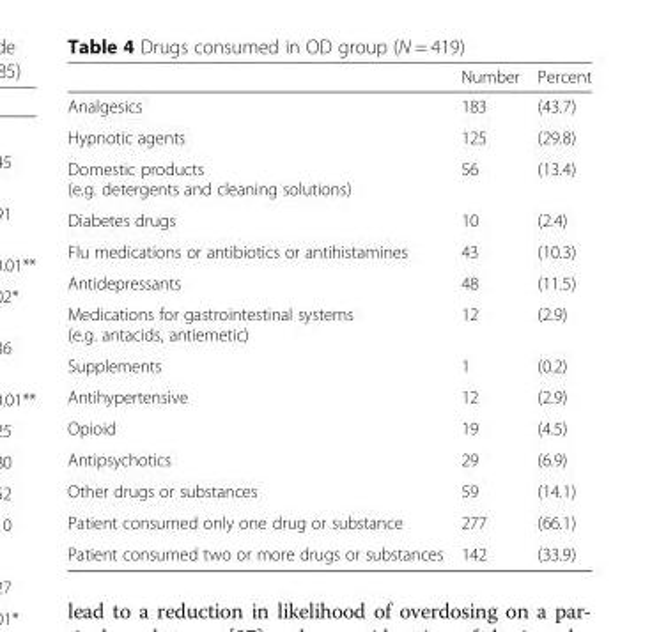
<table><thead><tr><td></td><td>Number</td><td>Percent</td></tr></thead><tbody><tr><td>Analgesics</td><td>183</td><td>(43.7)</td></tr><tr><td>Hypnotic agents</td><td>125</td><td>(29.8)</td></tr><tr><td>Domestic products (e.g. detergents and cleaning solutions)</td><td>56</td><td>(13.4)</td></tr><tr><td>Diabetes drugs</td><td>10</td><td>(2.4)</td></tr><tr><td>Flu medications or antibiotics or antihistamines</td><td>43</td><td>(10.3)</td></tr><tr><td>Antidepressants</td><td>48</td><td>(11.5)</td></tr><tr><td>Medications for gastrointestinal systems (e.g. antacids, antiemetic)</td><td>12</td><td>(2.9)</td></tr><tr><td>Supplements</td><td>1</td><td>(0.2)</td></tr><tr><td>Antihypertensive</td><td>12</td><td>(2.9)</td></tr><tr><td>Opioid</td><td>19</td><td>(4.5)</td></tr><tr><td>Antipsychotics</td><td>29</td><td>(6.9)</td></tr><tr><td>Other drugs or substances</td><td>59</td><td>(14.1)</td></tr><tr><td>Patient consumed only one drug or substance</td><td>277</td><td>(66.1)</td></tr><tr><td>Patient consumed two or more drugs or substances</td><td>142</td><td>(33.9)</td></tr></tbody></table>